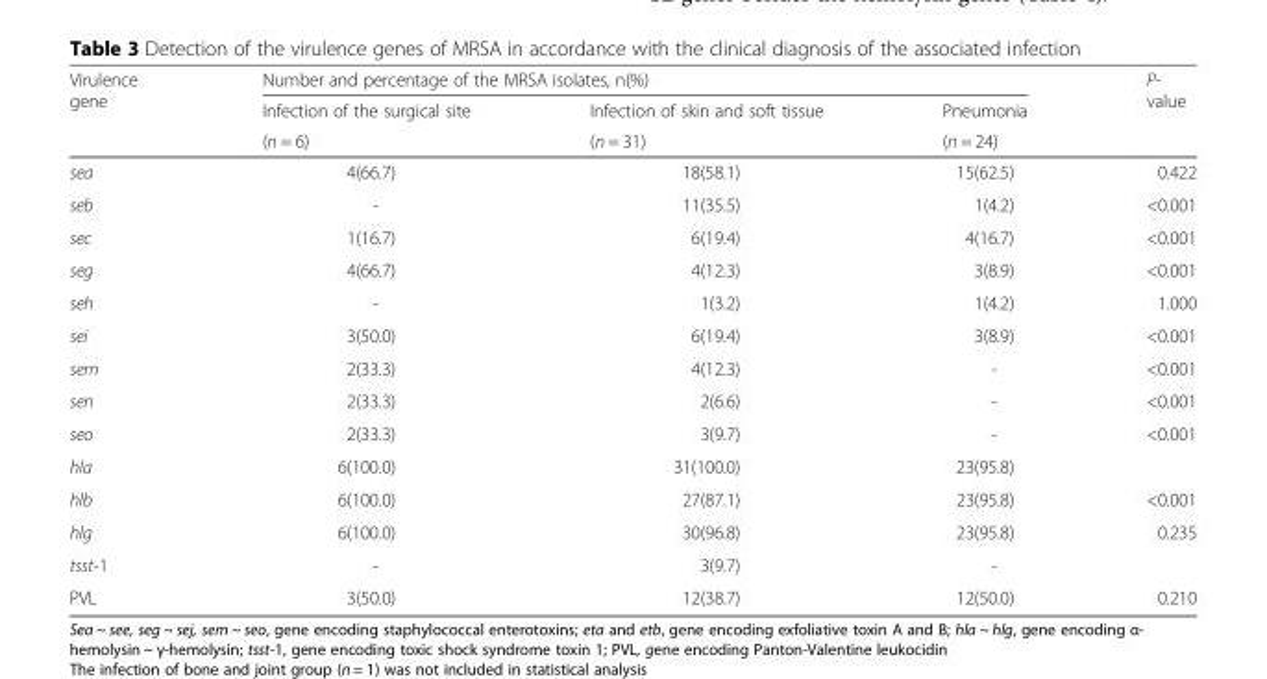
<table><thead><tr><td rowspan="3">Virulence gene</td><td colspan="3">Number and percentage of the MRSA isolates, n(%)</td><td rowspan="3">P- value</td></tr><tr><td rowspan="2">Infection of the surgical site (n = 6)</td><td rowspan="2">Infection of skin and soft tissue (n = 31)</td><td rowspan="2">Pneumonia (n = 24)</td></tr><tr></tr></thead><tbody><tr><td>sea</td><td>4(66.7)</td><td>18(58.1)</td><td>15(62.5)</td><td>0.422</td></tr><tr><td>seb</td><td>-</td><td>11(35.5)</td><td>1(4.2)</td><td>&lt;0.001</td></tr><tr><td>sec</td><td>1(16.7)</td><td>6(19.4)</td><td>4(16.7)</td><td>&lt;0.001</td></tr><tr><td>seg</td><td>4(66.7)</td><td>4(12.3)</td><td>3(8.9)</td><td>&lt;0.001</td></tr><tr><td>seh</td><td>-</td><td>1(3.2)</td><td>1(4.2)</td><td>1.000</td></tr><tr><td>sei</td><td>3(50.0)</td><td>6(19.4)</td><td>3(8.9)</td><td>&lt;0.001</td></tr><tr><td>sem</td><td>2(33.3)</td><td>4(12.3)</td><td>-</td><td>&lt;0.001</td></tr><tr><td>sen</td><td>2(33.3)</td><td>2(6.6)</td><td>-</td><td>&lt;0.001</td></tr><tr><td>seo</td><td>2(33.3)</td><td>3(9.7)</td><td>-</td><td>&lt;0.001</td></tr><tr><td>hla</td><td>6(100.0)</td><td>31(100.0)</td><td>23(95.8)</td><td></td></tr><tr><td>hlb</td><td>6(100.0)</td><td>27(87.1)</td><td>23(95.8)</td><td>&lt;0.001</td></tr><tr><td>hlg</td><td>6(100.0)</td><td>30(96.8)</td><td>23(95.8)</td><td>0.235</td></tr><tr><td>tsst-1</td><td>-</td><td>3(9.7)</td><td>-</td><td></td></tr><tr><td>PVL</td><td>3(50.0)</td><td>12(38.7)</td><td>12(50.0)</td><td>0.210</td></tr></tbody></table>